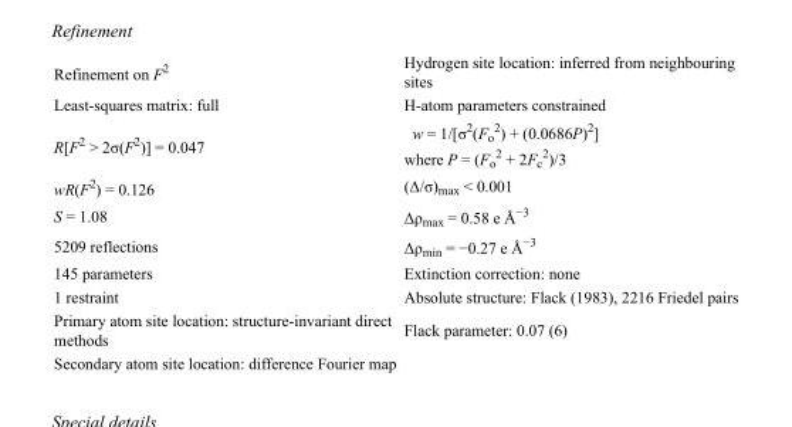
<table><tbody><tr><td>Refinement on F<sup>2</sup></td><td>Hydrogen site location: inferred from neighbouring sites</td></tr><tr><td>Least-squares matrix: full</td><td>H-atom parameters constrained</td></tr><tr><td>R[F<sup>2</sup> &gt; 2σ(F<sup>2</sup>)] = 0.047</td><td>w = 1/[σ<sup>2</sup>(F<sub>o</sub> <sup>2</sup>) + (0.0686P)<sup>2</sup>] where P = (F<sub>o</sub> <sup>2</sup> + 2F<sub>c</sub> <sup>2</sup>)/3</td></tr><tr><td>wR(F<sup>2</sup>) = 0.126</td><td>(Δ/σ)<sub>max</sub> &lt; 0.001</td></tr><tr><td>S = 1.08</td><td>Δρ<sub>max</sub> = 0.58 e Å<sup>−3</sup></td></tr><tr><td>5209 reflections</td><td>Δρ<sub>min</sub> = −0.27 e Å<sup>−3</sup></td></tr><tr><td>145 parameters</td><td>Extinction correction: none</td></tr><tr><td>1 restraint</td><td>Absolute structure: Flack (1983), 2216 Friedel pairs</td></tr><tr><td>Primary atom site location: structure-invariant direct methods</td><td>Flack parameter: 0.07 (6)</td></tr><tr><td>Secondary atom site location: difference Fourier map</td><td></td></tr></tbody></table>